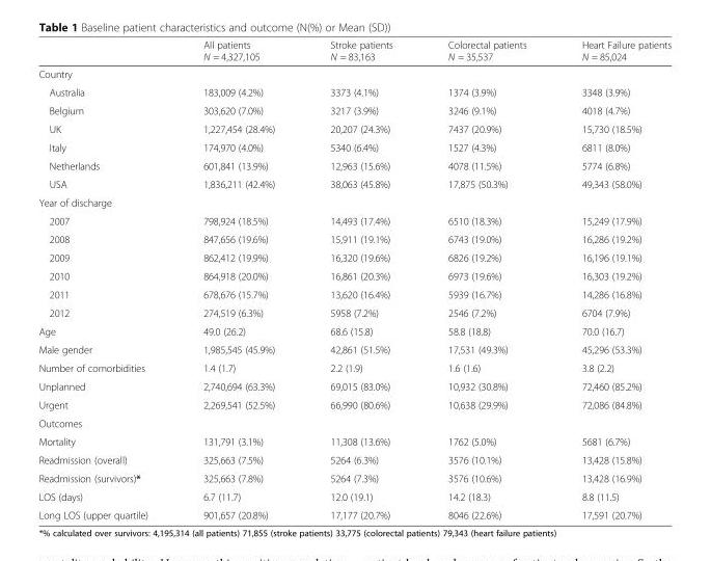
<table><thead><tr><td></td><td>All patients N = 4,327,105</td><td>Stroke patients N = 83,163</td><td>Colorectal patients N = 35,537</td><td>Heart Failure patients N = 85,024</td></tr></thead><tbody><tr><td colspan="5">Country</td></tr><tr><td>Australia</td><td>183,009 (4.2%)</td><td>3373 (4.1%)</td><td>1374 (3.9%)</td><td>3348 (3.9%)</td></tr><tr><td>Belgium</td><td>303,620 (7.0%)</td><td>3217 (3.9%)</td><td>3246 (9.1%)</td><td>4018 (4.7%)</td></tr><tr><td>UK</td><td>1,227,454 (28.4%)</td><td>20,207 (24.3%)</td><td>7437 (20.9%)</td><td>15,730 (18.5%)</td></tr><tr><td>Italy</td><td>174,970 (4.0%)</td><td>5340 (6.4%)</td><td>1527 (4.3%)</td><td>6811 (8.0%)</td></tr><tr><td>Netherlands</td><td>601,841 (13.9%)</td><td>12,963 (15.6%)</td><td>4078 (11.5%)</td><td>5774 (6.8%)</td></tr><tr><td>USA</td><td>1,836,211 (42.4%)</td><td>38,063 (45.8%)</td><td>17,875 (50.3%)</td><td>49,343 (58.0%)</td></tr><tr><td colspan="5">Year of discharge</td></tr><tr><td>2007</td><td>798,924 (18.5%)</td><td>14,493 (17.4%)</td><td>6510 (18.3%)</td><td>15,249 (17.9%)</td></tr><tr><td>2008</td><td>847,656 (19.6%)</td><td>15,911 (19.1%)</td><td>6743 (19.0%)</td><td>16,286 (19.2%)</td></tr><tr><td>2009</td><td>862,412 (19.9%)</td><td>16,320 (19.6%)</td><td>6826 (19.2%)</td><td>16,196 (19.1%)</td></tr><tr><td>2010</td><td>864,918 (20.0%)</td><td>16,861 (20.3%)</td><td>6973 (19.6%)</td><td>16,303 (19.2%)</td></tr><tr><td>2011</td><td>678,676 (15.7%)</td><td>13,620 (16.4%)</td><td>5939 (16.7%)</td><td>14,286 (16.8%)</td></tr><tr><td>2012</td><td>274,519 (6.3%)</td><td>5958 (7.2%)</td><td>2546 (7.2%)</td><td>6704 (7.9%)</td></tr><tr><td>Age</td><td>49.0 (26.2)</td><td>68.6 (15.8)</td><td>58.8 (18.8)</td><td>70.0 (16.7)</td></tr><tr><td>Male gender</td><td>1,985,545 (45.9%)</td><td>42,861 (51.5%)</td><td>17,531 (49.3%)</td><td>45,296 (53.3%)</td></tr><tr><td>Number of comorbidities</td><td>1.4 (1.7)</td><td>2.2 (1.9)</td><td>1.6 (1.6)</td><td>3.8 (2.2)</td></tr><tr><td>Unplanned</td><td>2,740,694 (63.3%)</td><td>69,015 (83.0%)</td><td>10,932 (30.8%)</td><td>72,460 (85.2%)</td></tr><tr><td>Urgent</td><td>2,269,541 (52.5%)</td><td>66,990 (80.6%)</td><td>10,638 (29.9%)</td><td>72,086 (84.8%)</td></tr><tr><td colspan="5">Outcomes</td></tr><tr><td>Mortality</td><td>131,791 (3.1%)</td><td>11,308 (13.6%)</td><td>1762 (5.0%)</td><td>5681 (6.7%)</td></tr><tr><td>Readmission (overall)</td><td>325,663 (7.5%)</td><td>5264 (6.3%)</td><td>3576 (10.1%)</td><td>13,428 (15.8%)</td></tr><tr><td>Readmission (survivors)*</td><td>325,663 (7.8%)</td><td>5264 (7.3%)</td><td>3576 (10.6%)</td><td>13,428 (16.9%)</td></tr><tr><td>LOS (days)</td><td>6.7 (11.7)</td><td>12.0 (19.1)</td><td>14.2 (18.3)</td><td>8.8 (11.5)</td></tr><tr><td>Long LOS (upper quartile)</td><td>901,657 (20.8%)</td><td>17,177 (20.7%)</td><td>8046 (22.6%)</td><td>17,591 (20.7%)</td></tr></tbody></table>